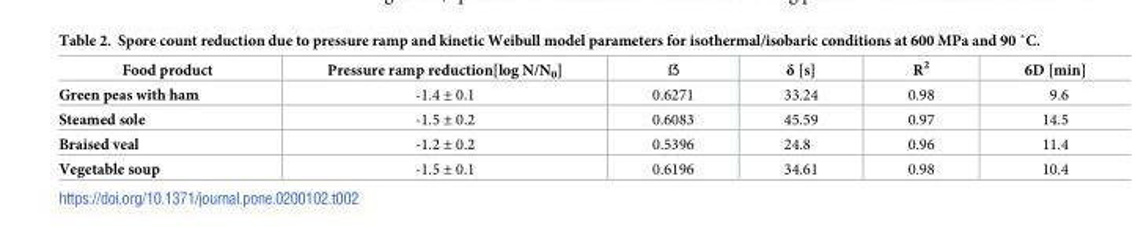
<table><thead><tr><td>Food product</td><td>Pressure ramp reduction[log N/N<sub>0</sub>]</td><td>ẞ</td><td>δ [s]</td><td>R<sup>2</sup></td><td>6D [min]</td></tr></thead><tbody><tr><td>Green peas with ham</td><td>-1.4 ± 0.1</td><td>0.6271</td><td>33.24</td><td>0.98</td><td>9.6</td></tr><tr><td>Steamed sole</td><td>-1.5 ± 0.2</td><td>0.6083</td><td>45.59</td><td>0.97</td><td>14.5</td></tr><tr><td>Braised veal</td><td>-1.2 ± 0.2</td><td>0.5396</td><td>24.8</td><td>0.96</td><td>11.4</td></tr><tr><td>Vegetable soup</td><td>-1.5 ± 0.1</td><td>0.6196</td><td>34.61</td><td>0.98</td><td>10.4</td></tr></tbody></table>